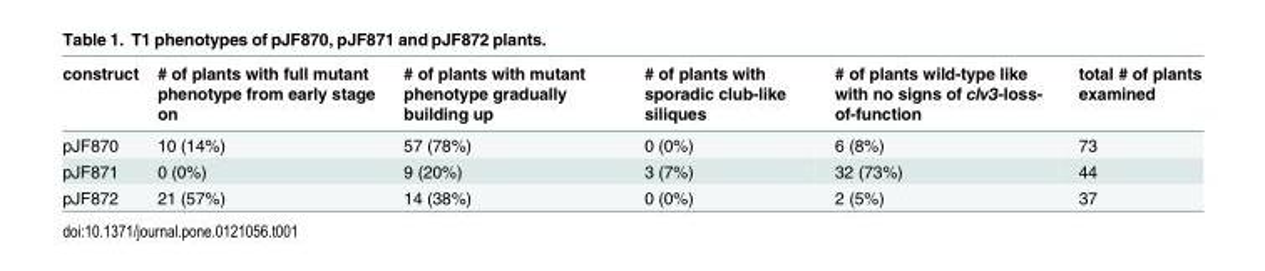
<table><thead><tr><td>construct</td><td># of plants with full mutant phenotype from early stage on</td><td># of plants with mutant phenotype gradually building up</td><td># of plants with sporadic club-like siliques</td><td># of plants wild-type like with no signs of clv3-loss- of-function</td><td>total # of plants examined</td></tr></thead><tbody><tr><td>pJF870</td><td>10 (14%)</td><td>57 (78%)</td><td>0 (0%)</td><td>6 (8%)</td><td>73</td></tr><tr><td>pJF871</td><td>0 (0%)</td><td>9 (20%)</td><td>3 (7%)</td><td>32 (73%)</td><td>44</td></tr><tr><td>pJF872</td><td>21 (57%)</td><td>14 (38%)</td><td>0 (0%)</td><td>2 (5%)</td><td>37</td></tr></tbody></table>